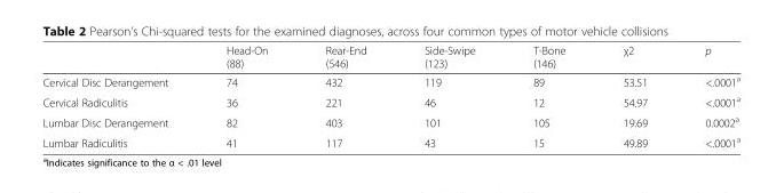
<table><thead><tr><td></td><td>Head-On (88)</td><td>Rear-End (546)</td><td>Side-Swipe (123)</td><td>T-Bone (146)</td><td>χ2</td><td>p</td></tr></thead><tbody><tr><td>Cervical Disc Derangement</td><td>74</td><td>432</td><td>119</td><td>89</td><td>53.51</td><td>&lt;.0001<sup>a</sup></td></tr><tr><td>Cervical Radiculitis</td><td>36</td><td>221</td><td>46</td><td>12</td><td>54.97</td><td>&lt;.0001<sup>a</sup></td></tr><tr><td>Lumbar Disc Derangement</td><td>82</td><td>403</td><td>101</td><td>105</td><td>19.69</td><td>0.0002<sup>a</sup></td></tr><tr><td>Lumbar Radiculitis</td><td>41</td><td>117</td><td>43</td><td>15</td><td>49.89</td><td>&lt;.0001<sup>a</sup></td></tr></tbody></table>